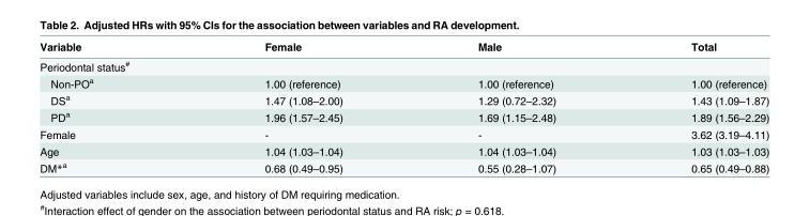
<table><thead><tr><td>Variable</td><td>Female</td><td>Male</td><td>Total</td></tr></thead><tbody><tr><td colspan="4">Periodontal status<sup>#</sup></td></tr><tr><td>Non-PO<sup>a</sup></td><td>1.00 (reference)</td><td>1.00 (reference)</td><td>1.00 (reference)</td></tr><tr><td>DS<sup>a</sup></td><td>1.47 (1.08–2.00)</td><td>1.29 (0.72–2.32)</td><td>1.43 (1.09–1.87)</td></tr><tr><td>PD<sup>a</sup></td><td>1.96 (1.57–2.45)</td><td>1.69 (1.15–2.48)</td><td>1.89 (1.56–2.29)</td></tr><tr><td>Female</td><td>-</td><td>-</td><td>3.62 (3.19–4.11)</td></tr><tr><td>Age</td><td>1.04 (1.03–1.04)</td><td>1.04 (1.03–1.04)</td><td>1.03 (1.03–1.03)</td></tr><tr><td>DM*<sup>a</sup></td><td>0.68 (0.49–0.95)</td><td>0.55 (0.28–1.07)</td><td>0.65 (0.49–0.88)</td></tr></tbody></table>